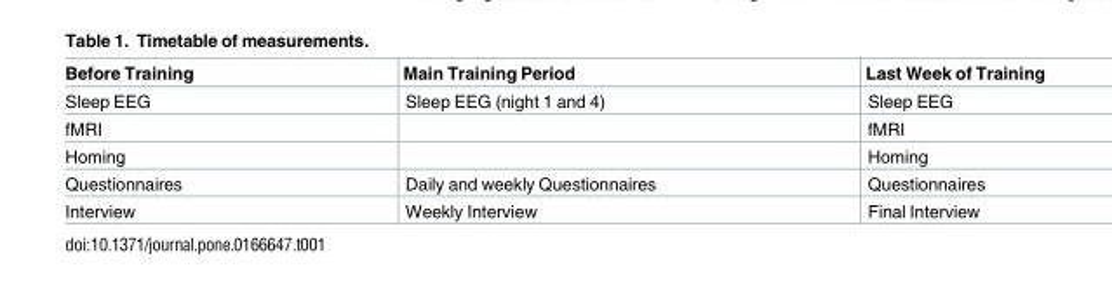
<table><thead><tr><td>Before Training</td><td>Main Training Period</td><td>Last Week of Training</td></tr></thead><tbody><tr><td>Sleep EEG</td><td>Sleep EEG (night 1 and 4)</td><td>Sleep EEG</td></tr><tr><td>fMRI</td><td></td><td>fMRI</td></tr><tr><td>Homing</td><td></td><td>Homing</td></tr><tr><td>Questionnaires</td><td>Daily and weekly Questionnaires</td><td>Questionnaires</td></tr><tr><td>Interview</td><td>Weekly Interview</td><td>Final Interview</td></tr></tbody></table>